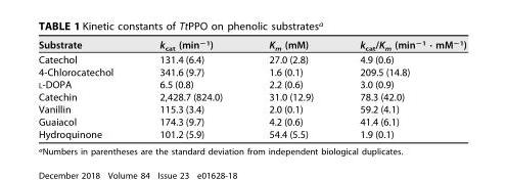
<table><thead><tr><td>Substrate</td><td>k<sub>cat</sub> (min<sup>−1</sup>)</td><td>K<sub>m</sub> (mM)</td><td>k<sub>cat</sub>/K<sub>m</sub> (min<sup>−1</sup> · mM<sup>−1</sup>)</td></tr></thead><tbody><tr><td>Catechol</td><td>131.4 (6.4)</td><td>27.0 (2.8)</td><td>4.9 (0.6)</td></tr><tr><td>4-Chlorocatechol</td><td>341.6 (9.7)</td><td>1.6 (0.1)</td><td>209.5 (14.8)</td></tr><tr><td>L-DOPA</td><td>6.5 (0.8)</td><td>2.2 (0.6)</td><td>3.0 (0.9)</td></tr><tr><td>Catechin</td><td>2,428.7 (824.0)</td><td>31.0 (12.9)</td><td>78.3 (42.0)</td></tr><tr><td>Vanillin</td><td>115.3 (3.4)</td><td>2.0 (0.1)</td><td>59.2 (4.1)</td></tr><tr><td>Guaiacol</td><td>174.3 (9.7)</td><td>4.2 (0.6)</td><td>41.4 (6.1)</td></tr><tr><td>Hydroquinone</td><td>101.2 (5.9)</td><td>54.4 (5.5)</td><td>1.9 (0.1)</td></tr></tbody></table>